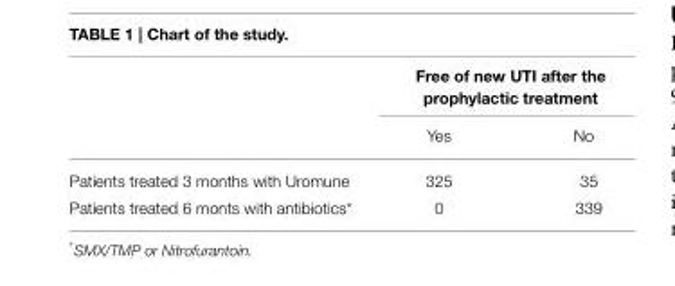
<table><thead><tr><td rowspan="2"></td><td colspan="2">Free of new UTI after the prophylactic treatment</td></tr><tr><td>Yes</td><td>No</td></tr></thead><tbody><tr><td>Patients treated 3 months with Uromune</td><td>325</td><td>35</td></tr><tr><td>Patients treated 6 monts with antibiotics*</td><td>0</td><td>339</td></tr></tbody></table>